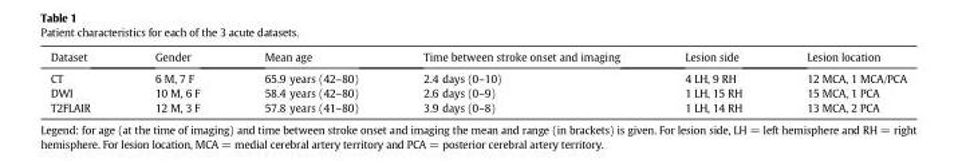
<table><thead><tr><td>Dataset</td><td>Gender</td><td>Mean age</td><td>Time between stroke onset and imaging</td><td>Lesion side</td><td>Lesion location</td></tr></thead><tbody><tr><td>CT</td><td>6 M, 7 F</td><td>65.9 years (42–80)</td><td>2.4 days (0–10)</td><td>4 LH, 9 RH</td><td>12 MCA, 1 MCA/PCA</td></tr><tr><td>DWI</td><td>10 M, 6 F</td><td>58.4 years (42–80)</td><td>2.6 days (0–9)</td><td>1 LH, 15 RH</td><td>15 MCA, 1 PCA</td></tr><tr><td>T2FLAIR</td><td>12 M, 3 F</td><td>57.8 years (41–80)</td><td>3.9 days (0–8)</td><td>1 LH, 14 RH</td><td>13 MCA, 2 PCA</td></tr></tbody></table>